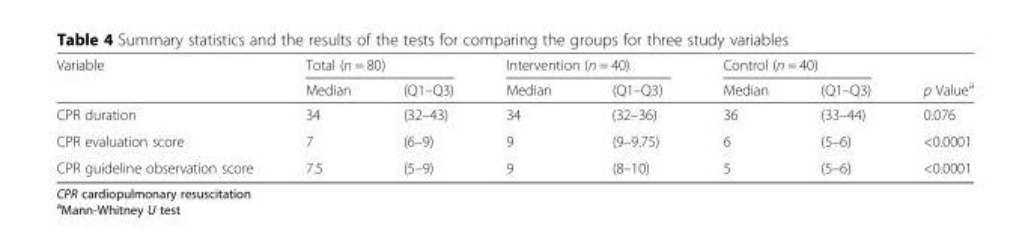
<table><thead><tr><td rowspan="2">Variable</td><td colspan="2">Total (n = 80)</td><td colspan="2">Intervention (n = 40)</td><td colspan="2">Control (n = 40)</td><td rowspan="2">p Value<sup>a</sup></td></tr><tr><td>Median</td><td>(Q1–Q3)</td><td>Median</td><td>(Q1–Q3)</td><td>Median</td><td>(Q1–Q3)</td></tr></thead><tbody><tr><td>CPR duration</td><td>34</td><td>(32–43)</td><td>34</td><td>(32–36)</td><td>36</td><td>(33–44)</td><td>0.076</td></tr><tr><td>CPR evaluation score</td><td>7</td><td>(6–9)</td><td>9</td><td>(9–9.75)</td><td>6</td><td>(5–6)</td><td>&lt;0.0001</td></tr><tr><td>CPR guideline observation score</td><td>7.5</td><td>(5–9)</td><td>9</td><td>(8–10)</td><td>5</td><td>(5–6)</td><td>&lt;0.0001</td></tr></tbody></table>